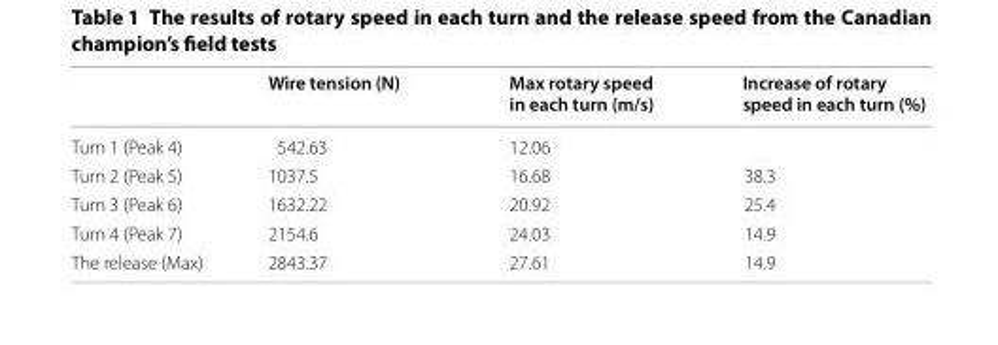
<table><thead><tr><td></td><td>Wire tension (N)</td><td>Max rotary speed in each turn (m/s)</td><td>Increase of rotary speed in each turn (%)</td></tr></thead><tbody><tr><td>Turn 1 (Peak 4)</td><td>542.63</td><td>12.06</td><td></td></tr><tr><td>Turn 2 (Peak 5)</td><td>1037.5</td><td>16.68</td><td>38.3</td></tr><tr><td>Turn 3 (Peak 6)</td><td>1632.22</td><td>20.92</td><td>25.4</td></tr><tr><td>Turn 4 (Peak 7)</td><td>2154.6</td><td>24.03</td><td>14.9</td></tr><tr><td>The release (Max)</td><td>2843.37</td><td>27.61</td><td>14.9</td></tr></tbody></table>